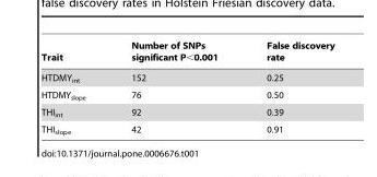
<table><thead><tr><td>Trait</td><td>Number of SNPs significant P&lt;0.001</td><td>False discovery rate</td></tr></thead><tbody><tr><td>HTDMY<sub>int</sub></td><td>152</td><td>0.25</td></tr><tr><td>HTDMY<sub>slope</sub></td><td>76</td><td>0.50</td></tr><tr><td>THI<sub>int</sub></td><td>92</td><td>0.39</td></tr><tr><td>THI<sub>slope</sub></td><td>42</td><td>0.91</td></tr></tbody></table>